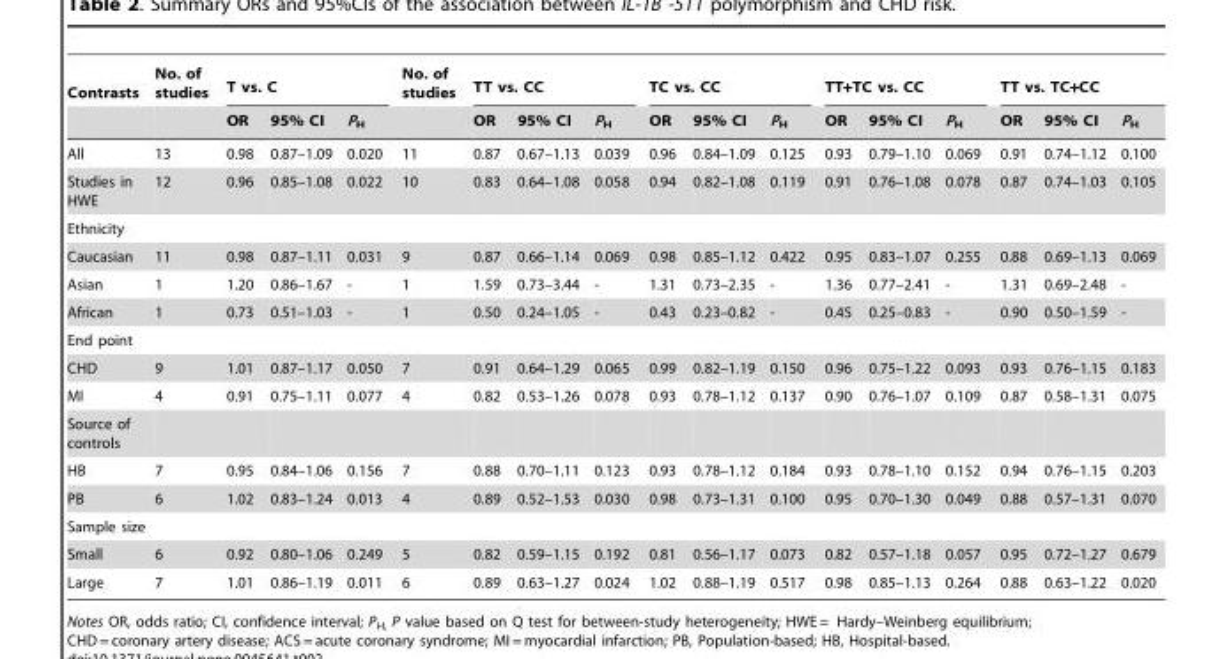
<table><thead><tr><td rowspan="2">Contrasts</td><td rowspan="2">No. of studies</td><td colspan="3">T vs. C</td><td rowspan="2">No. of studies</td><td colspan="3">TT vs. CC</td><td colspan="3">TC vs. CC</td><td colspan="3">TT+TC vs. CC</td><td colspan="3">TT vs. TC+CC</td></tr><tr><td>OR</td><td>95% CI</td><td>P<sub>H</sub></td><td>OR</td><td>95% CI</td><td>P<sub>H</sub></td><td>OR</td><td>95% CI</td><td>P<sub>H</sub></td><td>OR</td><td>95% CI</td><td>P<sub>H</sub></td><td>OR</td><td>95% CI</td><td>P<sub>H</sub></td></tr></thead><tbody><tr><td>All</td><td>13</td><td>0.98</td><td>0.87–1.09</td><td>0.020</td><td>11</td><td>0.87</td><td>0.67–1.13</td><td>0.039</td><td>0.96</td><td>0.84–1.09</td><td>0.125</td><td>0.93</td><td>0.79–1.10</td><td>0.069</td><td>0.91</td><td>0.74–1.12</td><td>0.100</td></tr><tr><td>Studies in HWE</td><td>12</td><td>0.96</td><td>0.85–1.08</td><td>0.022</td><td>10</td><td>0.83</td><td>0.64–1.08</td><td>0.058</td><td>0.94</td><td>0.82–1.08</td><td>0.119</td><td>0.91</td><td>0.76–1.08</td><td>0.078</td><td>0.87</td><td>0.74–1.03</td><td>0.105</td></tr><tr><td colspan="18">Ethnicity</td></tr><tr><td>Caucasian</td><td>11</td><td>0.98</td><td>0.87–1.11</td><td>0.031</td><td>9</td><td>0.87</td><td>0.66–1.14</td><td>0.069</td><td>0.98</td><td>0.85–1.12</td><td>0.422</td><td>0.95</td><td>0.83–1.07</td><td>0.255</td><td>0.88</td><td>0.69–1.13</td><td>0.069</td></tr><tr><td>Asian</td><td>1</td><td>1.20</td><td>0.86–1.67</td><td>-</td><td>1</td><td>1.59</td><td>0.73–3.44</td><td>-</td><td>1.31</td><td>0.73–2.35</td><td>-</td><td>1.36</td><td>0.77–2.41</td><td>-</td><td>1.31</td><td>0.69–2.48</td><td>-</td></tr><tr><td>African</td><td>1</td><td>0.73</td><td>0.51–1.03</td><td>-</td><td>1</td><td>0.50</td><td>0.24–1.05</td><td>-</td><td>0.43</td><td>0.23–0.82</td><td>-</td><td>0.45</td><td>0.25–0.83</td><td>-</td><td>0.90</td><td>0.50–1.59</td><td>-</td></tr><tr><td colspan="18">End point</td></tr><tr><td>CHD</td><td>9</td><td>1.01</td><td>0.87–1.17</td><td>0.050</td><td>7</td><td>0.91</td><td>0.64–1.29</td><td>0.065</td><td>0.99</td><td>0.82–1.19</td><td>0.150</td><td>0.96</td><td>0.75–1.22</td><td>0.093</td><td>0.93</td><td>0.76–1.15</td><td>0.183</td></tr><tr><td>MI</td><td>4</td><td>0.91</td><td>0.75–1.11</td><td>0.077</td><td>4</td><td>0.82</td><td>0.53–1.26</td><td>0.078</td><td>0.93</td><td>0.78–1.12</td><td>0.137</td><td>0.90</td><td>0.76–1.07</td><td>0.109</td><td>0.87</td><td>0.58–1.31</td><td>0.075</td></tr><tr><td colspan="18">Source of controls</td></tr><tr><td>HB</td><td>7</td><td>0.95</td><td>0.84–1.06</td><td>0.156</td><td>7</td><td>0.88</td><td>0.70–1.11</td><td>0.123</td><td>0.93</td><td>0.78–1.12</td><td>0.184</td><td>0.93</td><td>0.78–1.10</td><td>0.152</td><td>0.94</td><td>0.76–1.15</td><td>0.203</td></tr><tr><td>PB</td><td>6</td><td>1.02</td><td>0.83–1.24</td><td>0.013</td><td>4</td><td>0.89</td><td>0.52–1.53</td><td>0.030</td><td>0.98</td><td>0.73–1.31</td><td>0.100</td><td>0.95</td><td>0.70–1.30</td><td>0.049</td><td>0.88</td><td>0.57–1.31</td><td>0.070</td></tr><tr><td colspan="18">Sample size</td></tr><tr><td>Small</td><td>6</td><td>0.92</td><td>0.80–1.06</td><td>0.249</td><td>5</td><td>0.82</td><td>0.59–1.15</td><td>0.192</td><td>0.81</td><td>0.56–1.17</td><td>0.073</td><td>0.82</td><td>0.57–1.18</td><td>0.057</td><td>0.95</td><td>0.72–1.27</td><td>0.679</td></tr><tr><td>Large</td><td>7</td><td>1.01</td><td>0.86–1.19</td><td>0.011</td><td>6</td><td>0.89</td><td>0.63–1.27</td><td>0.024</td><td>1.02</td><td>0.88–1.19</td><td>0.517</td><td>0.98</td><td>0.85–1.13</td><td>0.264</td><td>0.88</td><td>0.63–1.22</td><td>0.020</td></tr></tbody></table>